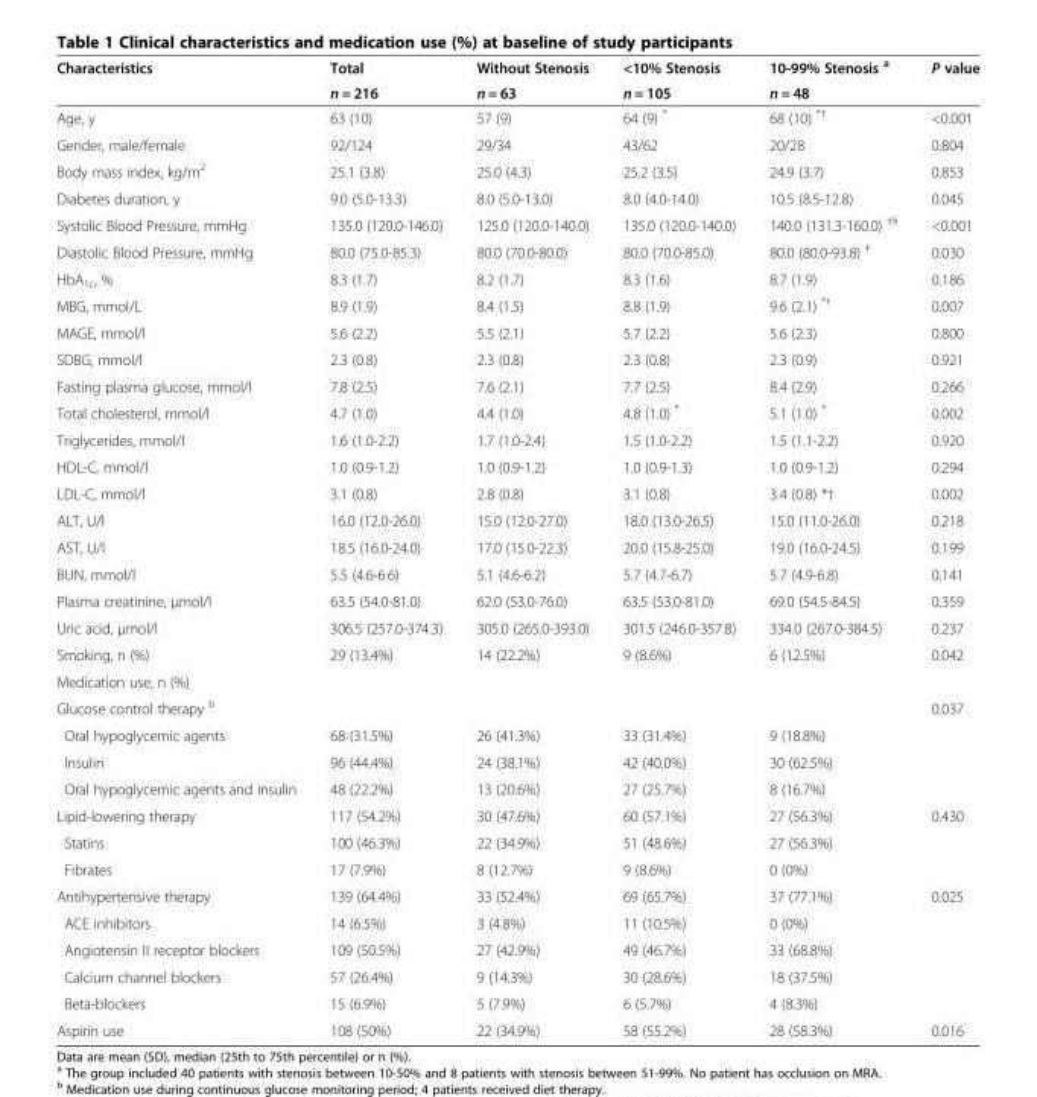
<table><thead><tr><td rowspan="2">Characteristics</td><td rowspan="2">Total n = 216</td><td rowspan="2">Without Stenosis n = 63</td><td rowspan="2">&lt;10% Stenosis n = 105</td><td rowspan="2">10-99% Stenosis <sup>a</sup> n = 48</td><td rowspan="2">P value</td></tr><tr></tr></thead><tbody><tr><td>Age, y</td><td>63 (10)</td><td>57 (9)</td><td>64 (9) *</td><td>68 (10) <sup>*†</sup></td><td>&lt;0.001</td></tr><tr><td>Gender, male/female</td><td>92/124</td><td>29/34</td><td>43/62</td><td>20/28</td><td>0.804</td></tr><tr><td>Body mass index, kg/m<sup>2</sup></td><td>25.1 (3.8)</td><td>25.0 (4.3)</td><td>25.2 (3.5)</td><td>24.9 (3.7)</td><td>0.853</td></tr><tr><td>Diabetes duration, y</td><td>9.0 (5.0-13.3)</td><td>8.0 (5.0-13.0)</td><td>8.0 (4.0-14.0)</td><td>10.5 (8.5-12.8)</td><td>0.045</td></tr><tr><td>Systolic Blood Pressure, mmHg</td><td>135.0 (120.0-146.0)</td><td>125.0 (120.0-140.0)</td><td>135.0 (120.0-140.0)</td><td>140.0 (131.3-160.0) <sup>‡§</sup></td><td>&lt;0.001</td></tr><tr><td>Diastolic Blood Pressure, mmHg</td><td>80.0 (75.0-85.3)</td><td>80.0 (70.0-80.0)</td><td>80.0 (70.0-85.0)</td><td>80.0 (80.0-93.8) <sup>‡</sup></td><td>0.030</td></tr><tr><td>HbA<sub>1c</sub>, %</td><td>8.3 (1.7)</td><td>8.2 (1.7)</td><td>8.3 (1.6)</td><td>8.7 (1.9)</td><td>0.186</td></tr><tr><td>MBG, mmol/L</td><td>8.9 (1.9)</td><td>8.4 (1.5)</td><td>8.8 (1.9)</td><td>9.6 (2.1) <sup>*†</sup></td><td>0.007</td></tr><tr><td>MAGE, mmol/l</td><td>5.6 (2.2)</td><td>5.5 (2.1)</td><td>5.7 (2.2)</td><td>5.6 (2.3)</td><td>0.800</td></tr><tr><td>SDBG, mmol/l</td><td>2.3 (0.8)</td><td>2.3 (0.8)</td><td>2.3 (0.8)</td><td>2.3 (0.9)</td><td>0.921</td></tr><tr><td>Fasting plasma glucose, mmol/l</td><td>7.8 (2.5)</td><td>7.6 (2.1)</td><td>7.7 (2.5)</td><td>8.4 (2.9)</td><td>0.266</td></tr><tr><td>Total cholesterol, mmol/l</td><td>4.7 (1.0)</td><td>4.4 (1.0)</td><td>4.8 (1.0) *</td><td>5.1 (1.0) *</td><td>0.002</td></tr><tr><td>Triglycerides, mmol/l</td><td>1.6 (1.0-2.2)</td><td>1.7 (1.0-2.4)</td><td>1.5 (1.0-2.2)</td><td>1.5 (1.1-2.2)</td><td>0.920</td></tr><tr><td>HDL-C, mmol/l</td><td>1.0 (0.9-1.2)</td><td>1.0 (0.9-1.2)</td><td>1.0 (0.9-1.3)</td><td>1.0 (0.9-1.2)</td><td>0.294</td></tr><tr><td>LDL-C, mmol/l</td><td>3.1 (0.8)</td><td>2.8 (0.8)</td><td>3.1 (0.8)</td><td>3.4 (0.8) *†</td><td>0.002</td></tr><tr><td>ALT, U/l</td><td>16.0 (12.0-26.0)</td><td>15.0 (12.0-27.0)</td><td>18.0 (13.0-26.5)</td><td>15.0 (11.0-26.0)</td><td>0.218</td></tr><tr><td>AST, U/l</td><td>18.5 (16.0-24.0)</td><td>17.0 (15.0-22.3)</td><td>20.0 (15.8-25.0)</td><td>19.0 (16.0-24.5)</td><td>0.199</td></tr><tr><td>BUN, mmol/l</td><td>5.5 (4.6-6.6)</td><td>5.1 (4.6-6.2)</td><td>5.7 (4.7-6.7)</td><td>5.7 (4.9-6.8)</td><td>0.141</td></tr><tr><td>Plasma creatinine, μmol/l</td><td>63.5 (54.0-81.0)</td><td>62.0 (53.0-76.0)</td><td>63.5 (53.0-81.0)</td><td>69.0 (54.5-84.5)</td><td>0.359</td></tr><tr><td>Uric acid, μmol/l</td><td>306.5 (257.0-374.3)</td><td>305.0 (265.0-393.0)</td><td>301.5 (246.0-357.8)</td><td>334.0 (267.0-384.5)</td><td>0.237</td></tr><tr><td>Smoking, n (%)</td><td>29 (13.4%)</td><td>14 (22.2%)</td><td>9 (8.6%)</td><td>6 (12.5%)</td><td>0.042</td></tr><tr><td colspan="6">Medication use, n (%)</td></tr><tr><td>Glucose control therapy <sup>b</sup></td><td></td><td></td><td></td><td></td><td>0.037</td></tr><tr><td>Oral hypoglycemic agents</td><td>68 (31.5%)</td><td>26 (41.3%)</td><td>33 (31.4%)</td><td>9 (18.8%)</td><td></td></tr><tr><td>Insulin</td><td>96 (44.4%)</td><td>24 (38.1%)</td><td>42 (40.0%)</td><td>30 (62.5%)</td><td></td></tr><tr><td>Oral hypoglycemic agents and insulin</td><td>48 (22.2%)</td><td>13 (20.6%)</td><td>27 (25.7%)</td><td>8 (16.7%)</td><td></td></tr><tr><td>Lipid-lowering therapy</td><td>117 (54.2%)</td><td>30 (47.6%)</td><td>60 (57.1%)</td><td>27 (56.3%)</td><td>0.430</td></tr><tr><td>Statins</td><td>100 (46.3%)</td><td>22 (34.9%)</td><td>51 (48.6%)</td><td>27 (56.3%)</td><td></td></tr><tr><td>Fibrates</td><td>17 (7.9%)</td><td>8 (12.7%)</td><td>9 (8.6%)</td><td>0 (0%)</td><td></td></tr><tr><td>Antihypertensive therapy</td><td>139 (64.4%)</td><td>33 (52.4%)</td><td>69 (65.7%)</td><td>37 (77.1%)</td><td>0.025</td></tr><tr><td>ACE inhibitors</td><td>14 (6.5%)</td><td>3 (4.8%)</td><td>11 (10.5%)</td><td>0 (0%)</td><td></td></tr><tr><td>Angiotensin II receptor blockers</td><td>109 (50.5%)</td><td>27 (42.9%)</td><td>49 (46.7%)</td><td>33 (68.8%)</td><td></td></tr><tr><td>Calcium channel blockers</td><td>57 (26.4%)</td><td>9 (14.3%)</td><td>30 (28.6%)</td><td>18 (37.5%)</td><td></td></tr><tr><td>Beta-blockers</td><td>15 (6.9%)</td><td>5 (7.9%)</td><td>6 (5.7%)</td><td>4 (8.3%)</td><td></td></tr><tr><td>Aspirin use</td><td>108 (50%)</td><td>22 (34.9%)</td><td>58 (55.2%)</td><td>28 (58.3%)</td><td>0.016</td></tr></tbody></table>